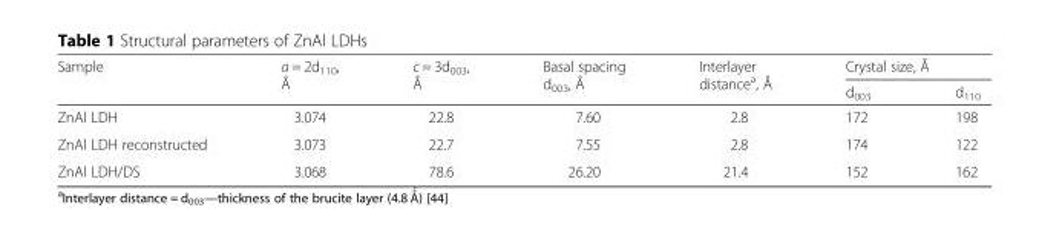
<table><thead><tr><td rowspan="2">Sample</td><td rowspan="2">a = 2d<sub>110</sub>, Å</td><td rowspan="2">c = 3d<sub>003</sub>, Å</td><td rowspan="2">Basal spacing d<sub>003</sub>, Å</td><td rowspan="2">Interlayer distance<sup>a</sup>, Å</td><td colspan="2">Crystal size, Å</td></tr><tr><td>d<sub>003</sub></td><td>d<sub>110</sub></td></tr></thead><tbody><tr><td>ZnAl LDH</td><td>3.074</td><td>22.8</td><td>7.60</td><td>2.8</td><td>172</td><td>198</td></tr><tr><td>ZnAl LDH reconstructed</td><td>3.073</td><td>22.7</td><td>7.55</td><td>2.8</td><td>174</td><td>122</td></tr><tr><td>ZnAl LDH/DS</td><td>3.068</td><td>78.6</td><td>26.20</td><td>21.4</td><td>152</td><td>162</td></tr></tbody></table>